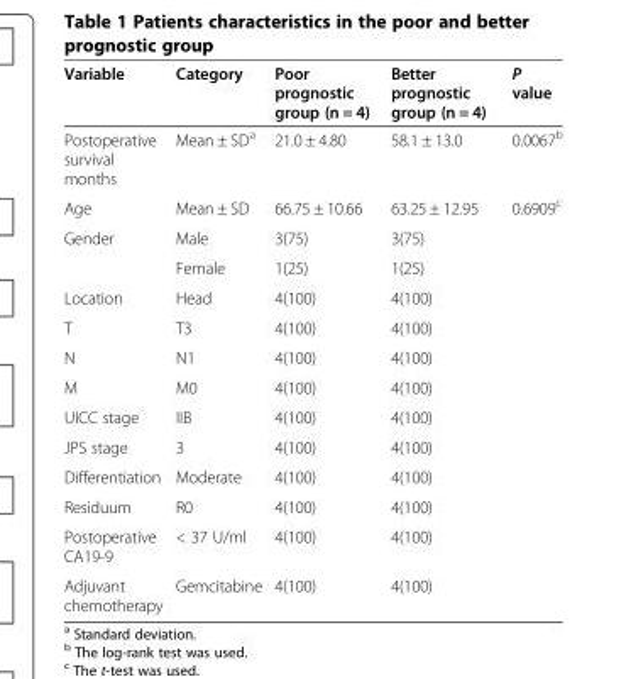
<table><thead><tr><td>Variable</td><td>Category</td><td>Poor prognostic group (n = 4)</td><td>Better prognostic group (n = 4)</td><td>P value</td></tr></thead><tbody><tr><td>Postoperative survival months</td><td>Mean ± SD<sup>a</sup></td><td>21.0 ± 4.80</td><td>58.1 ± 13.0</td><td>0.0067<sup>b</sup></td></tr><tr><td>Age</td><td>Mean ± SD</td><td>66.75 ± 10.66</td><td>63.25 ± 12.95</td><td>0.6909<sup>c</sup></td></tr><tr><td rowspan="2">Gender</td><td>Male</td><td>3(75)</td><td>3(75)</td><td></td></tr><tr><td>Female</td><td>1(25)</td><td>1(25)</td><td></td></tr><tr><td>Location</td><td>Head</td><td>4(100)</td><td>4(100)</td><td></td></tr><tr><td>T</td><td>T3</td><td>4(100)</td><td>4(100)</td><td></td></tr><tr><td>N</td><td>N1</td><td>4(100)</td><td>4(100)</td><td></td></tr><tr><td>M</td><td>M0</td><td>4(100)</td><td>4(100)</td><td></td></tr><tr><td>UICC stage</td><td>IIB</td><td>4(100)</td><td>4(100)</td><td></td></tr><tr><td>JPS stage</td><td>3</td><td>4(100)</td><td>4(100)</td><td></td></tr><tr><td>Differentiation</td><td>Moderate</td><td>4(100)</td><td>4(100)</td><td></td></tr><tr><td>Residuum</td><td>R0</td><td>4(100)</td><td>4(100)</td><td></td></tr><tr><td>Postoperative CA19-9</td><td>&lt; 37 U/ml</td><td>4(100)</td><td>4(100)</td><td></td></tr><tr><td>Adjuvant chemotherapy</td><td>Gemcitabine</td><td>4(100)</td><td>4(100)</td><td></td></tr></tbody></table>